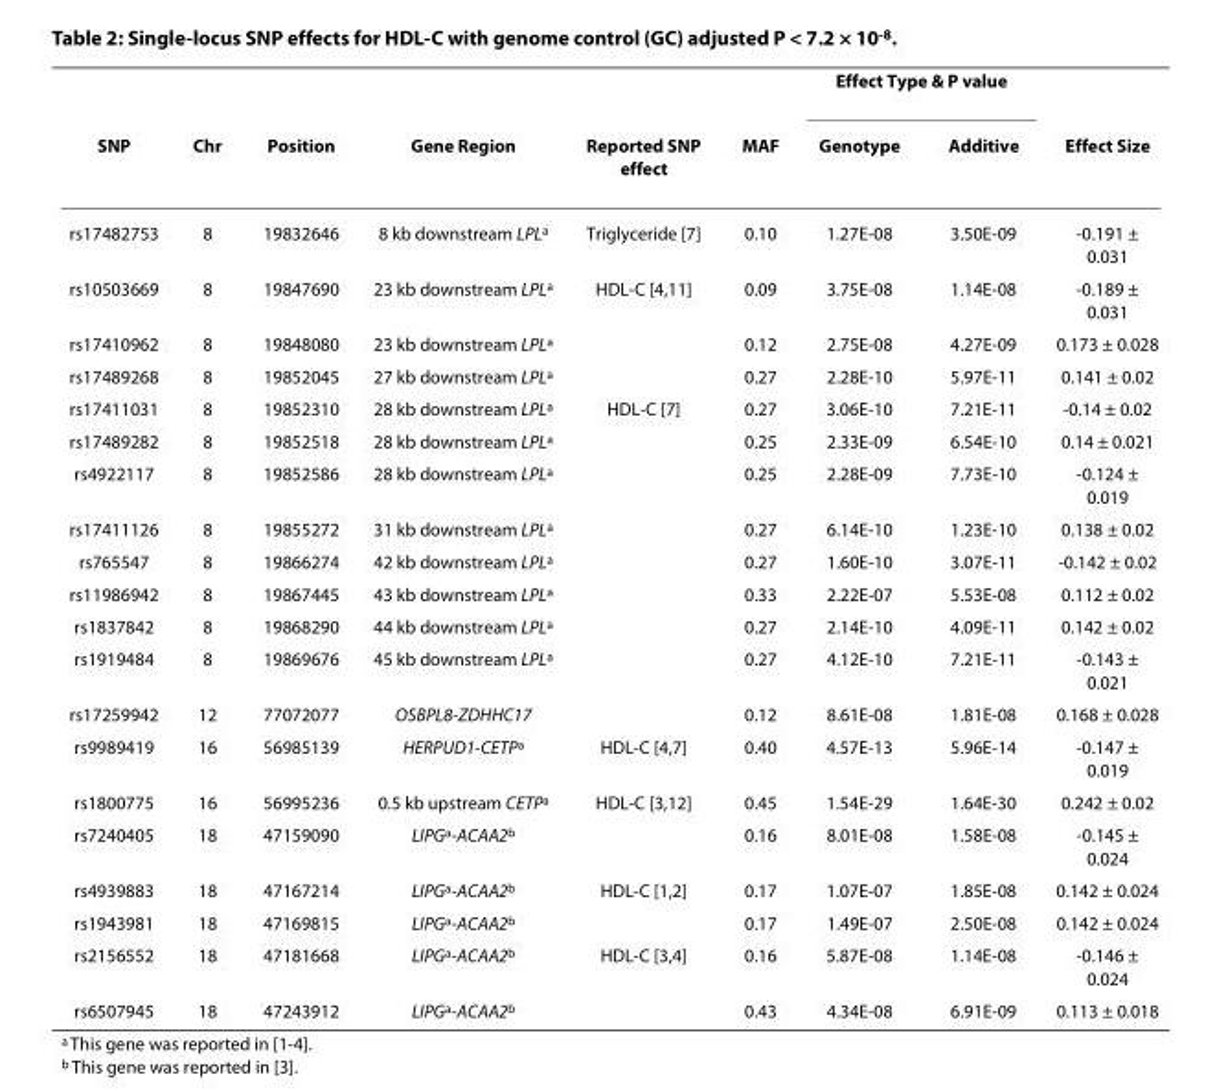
<table><thead><tr><td rowspan="2">SNP</td><td rowspan="2">Chr</td><td rowspan="2">Position</td><td rowspan="2">Gene Region</td><td rowspan="2">Reported SNP effect</td><td rowspan="2">MAF</td><td colspan="2">Effect Type &amp; P value</td><td rowspan="2">Effect Size</td></tr><tr><td>Genotype</td><td>Additive</td></tr></thead><tbody><tr><td>rs17482753</td><td>8</td><td>19832646</td><td>8 kb downstream LPL<sup>a</sup></td><td>Triglyceride [7]</td><td>0.10</td><td>1.27E-08</td><td>3.50E-09</td><td>-0.191 ± 0.031</td></tr><tr><td>rs10503669</td><td>8</td><td>19847690</td><td>23 kb downstream LPL<sup>a</sup></td><td>HDL-C [4,11]</td><td>0.09</td><td>3.75E-08</td><td>1.14E-08</td><td>-0.189 ± 0.031</td></tr><tr><td>rs17410962</td><td>8</td><td>19848080</td><td>23 kb downstream LPL<sup>a</sup></td><td></td><td>0.12</td><td>2.75E-08</td><td>4.27E-09</td><td>0.173 ± 0.028</td></tr><tr><td>rs17489268</td><td>8</td><td>19852045</td><td>27 kb downstream LPL<sup>a</sup></td><td></td><td>0.27</td><td>2.28E-10</td><td>5.97E-11</td><td>0.141 ± 0.02</td></tr><tr><td>rs17411031</td><td>8</td><td>19852310</td><td>28 kb downstream LPL<sup>a</sup></td><td>HDL-C [7]</td><td>0.27</td><td>3.06E-10</td><td>7.21E-11</td><td>-0.14 ± 0.02</td></tr><tr><td>rs17489282</td><td>8</td><td>19852518</td><td>28 kb downstream LPL<sup>a</sup></td><td></td><td>0.25</td><td>2.33E-09</td><td>6.54E-10</td><td>0.14 ± 0.021</td></tr><tr><td>rs4922117</td><td>8</td><td>19852586</td><td>28 kb downstream LPL<sup>a</sup></td><td></td><td>0.25</td><td>2.28E-09</td><td>7.73E-10</td><td>-0.124 ± 0.019</td></tr><tr><td>rs17411126</td><td>8</td><td>19855272</td><td>31 kb downstream LPL<sup>a</sup></td><td></td><td>0.27</td><td>6.14E-10</td><td>1.23E-10</td><td>0.138 ± 0.02</td></tr><tr><td>rs765547</td><td>8</td><td>19866274</td><td>42 kb downstream LPL<sup>a</sup></td><td></td><td>0.27</td><td>1.60E-10</td><td>3.07E-11</td><td>-0.142 ± 0.02</td></tr><tr><td>rs11986942</td><td>8</td><td>19867445</td><td>43 kb downstream LPL<sup>a</sup></td><td></td><td>0.33</td><td>2.22E-07</td><td>5.53E-08</td><td>0.112 ± 0.02</td></tr><tr><td>rs1837842</td><td>8</td><td>19868290</td><td>44 kb downstream LPL<sup>a</sup></td><td></td><td>0.27</td><td>2.14E-10</td><td>4.09E-11</td><td>0.142 ± 0.02</td></tr><tr><td>rs1919484</td><td>8</td><td>19869676</td><td>45 kb downstream LPL<sup>a</sup></td><td></td><td>0.27</td><td>4.12E-10</td><td>7.21E-11</td><td>-0.143 ± 0.021</td></tr><tr><td>rs17259942</td><td>12</td><td>77072077</td><td>OSBPL8-ZDHHC17</td><td></td><td>0.12</td><td>8.61E-08</td><td>1.81E-08</td><td>0.168 ± 0.028</td></tr><tr><td>rs9989419</td><td>16</td><td>56985139</td><td>HERPUD1-CETP<sup>a</sup></td><td>HDL-C [4,7]</td><td>0.40</td><td>4.57E-13</td><td>5.96E-14</td><td>-0.147 ± 0.019</td></tr><tr><td>rs1800775</td><td>16</td><td>56995236</td><td>0.5 kb upstream CETP<sup>a</sup></td><td>HDL-C [3,12]</td><td>0.45</td><td>1.54E-29</td><td>1.64E-30</td><td>0.242 ± 0.02</td></tr><tr><td>rs7240405</td><td>18</td><td>47159090</td><td>LIPG<sup>a</sup>-ACAA2<sup>b</sup></td><td></td><td>0.16</td><td>8.01E-08</td><td>1.58E-08</td><td>-0.145 ± 0.024</td></tr><tr><td>rs4939883</td><td>18</td><td>47167214</td><td>LIPG<sup>a</sup>-ACAA2<sup>b</sup></td><td>HDL-C [1,2]</td><td>0.17</td><td>1.07E-07</td><td>1.85E-08</td><td>0.142 ± 0.024</td></tr><tr><td>rs1943981</td><td>18</td><td>47169815</td><td>LIPG<sup>a</sup>-ACAA2<sup>b</sup></td><td></td><td>0.17</td><td>1.49E-07</td><td>2.50E-08</td><td>0.142 ± 0.024</td></tr><tr><td>rs2156552</td><td>18</td><td>47181668</td><td>LIPG<sup>a</sup>-ACAA2<sup>b</sup></td><td>HDL-C [3,4]</td><td>0.16</td><td>5.87E-08</td><td>1.14E-08</td><td>-0.146 ± 0.024</td></tr><tr><td>rs6507945</td><td>18</td><td>47243912</td><td>LIPG<sup>a</sup>-ACAA2<sup>b</sup></td><td></td><td>0.43</td><td>4.34E-08</td><td>6.91E-09</td><td>0.113 ± 0.018</td></tr></tbody></table>